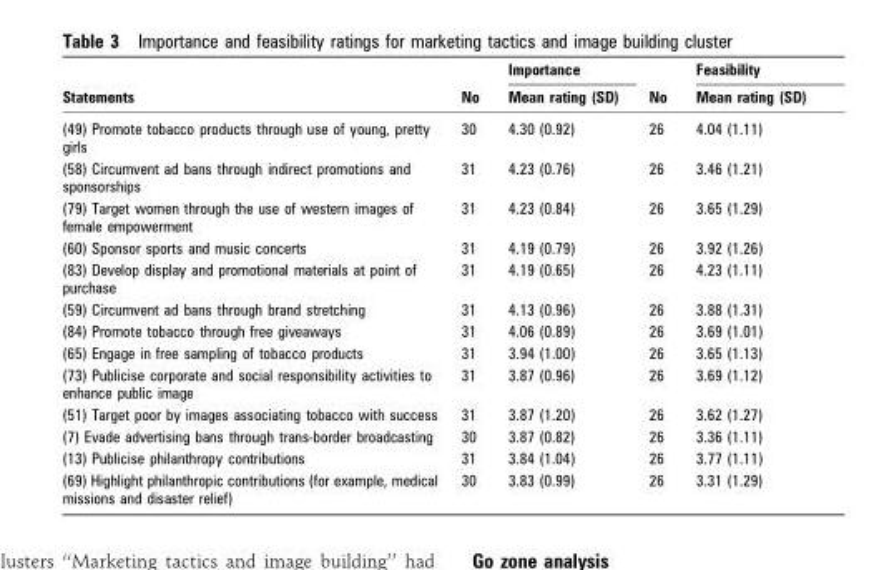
<table><thead><tr><td rowspan="2">Statements</td><td rowspan="2">No</td><td rowspan="2">Importance Mean rating (SD)</td><td rowspan="2">No</td><td rowspan="2">Feasibility Mean rating (SD)</td></tr><tr></tr></thead><tbody><tr><td>(49) Promote tobacco products through use of young, pretty girls</td><td>30</td><td>4.30 (0.92)</td><td>26</td><td>4.04 (1.11)</td></tr><tr><td>(58) Circumvent ad bans through indirect promotions and sponsorships</td><td>31</td><td>4.23 (0.76)</td><td>26</td><td>3.46 (1.21)</td></tr><tr><td>(79) Target women through the use of western images of female empowerment</td><td>31</td><td>4.23 (0.84)</td><td>26</td><td>3.65 (1.29)</td></tr><tr><td>(60) Sponsor sports and music concerts</td><td>31</td><td>4.19 (0.79)</td><td>26</td><td>3.92 (1.26)</td></tr><tr><td>(83) Develop display and promotional materials at point of purchase</td><td>31</td><td>4.19 (0.65)</td><td>26</td><td>4.23 (1.11)</td></tr><tr><td>(59) Circumvent ad bans through brand stretching</td><td>31</td><td>4.13 (0.96)</td><td>26</td><td>3.88 (1.31)</td></tr><tr><td>(84) Promote tobacco through free giveaways</td><td>31</td><td>4.06 (0.89)</td><td>26</td><td>3.69 (1.01)</td></tr><tr><td>(65) Engage in free sampling of tobacco products</td><td>31</td><td>3.94 (1.00)</td><td>26</td><td>3.65 (1.13)</td></tr><tr><td>(73) Publicise corporate and social responsibility activities to enhance public image</td><td>31</td><td>3.87 (0.96)</td><td>26</td><td>3.69 (1.12)</td></tr><tr><td>(51) Target poor by images associating tobacco with success</td><td>31</td><td>3.87 (1.20)</td><td>26</td><td>3.62 (1.27)</td></tr><tr><td>(7) Evade advertising bans through trans-border broadcasting</td><td>30</td><td>3.87 (0.82)</td><td>26</td><td>3.36 (1.11)</td></tr><tr><td>(13) Publicise philanthropy contributions</td><td>31</td><td>3.84 (1.04)</td><td>26</td><td>3.77 (1.11)</td></tr><tr><td>(69) Highlight philanthropic contributions (for example, medical missions and disaster relief)</td><td>30</td><td>3.83 (0.99)</td><td>26</td><td>3.31 (1.29)</td></tr></tbody></table>